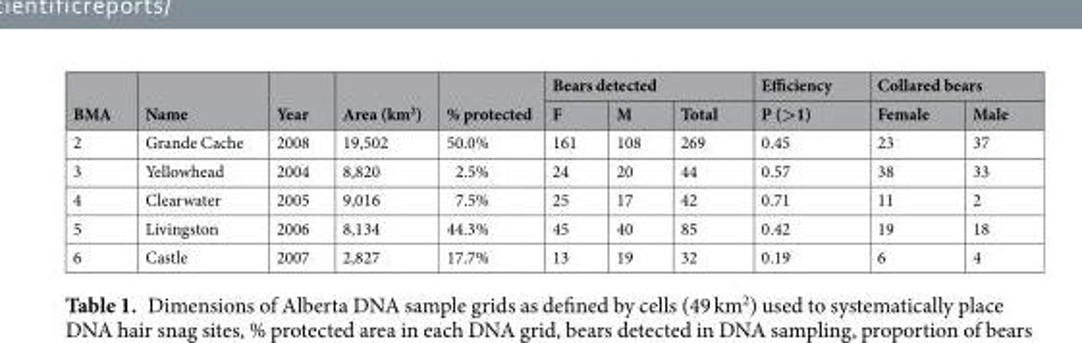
<table><thead><tr><td rowspan="2">BMA</td><td rowspan="2">Name</td><td rowspan="2">Year</td><td rowspan="2">Area (km<sup>2</sup>)</td><td rowspan="2">% protected</td><td colspan="3">Bears detected</td><td rowspan="2">Efficiency P (&gt;1)</td><td colspan="2">Collared bears</td></tr><tr><td>F</td><td>M</td><td>Total</td><td>Female</td><td>Male</td></tr></thead><tbody><tr><td>2</td><td>Grande Cache</td><td>2008</td><td>19,502</td><td>50.0%</td><td>161</td><td>108</td><td>269</td><td>0.45</td><td>23</td><td>37</td></tr><tr><td>3</td><td>Yellowhead</td><td>2004</td><td>8,820</td><td>2.5%</td><td>24</td><td>20</td><td>44</td><td>0.57</td><td>38</td><td>33</td></tr><tr><td>4</td><td>Clearwater</td><td>2005</td><td>9,016</td><td>7.5%</td><td>25</td><td>17</td><td>42</td><td>0.71</td><td>11</td><td>2</td></tr><tr><td>5</td><td>Livingston</td><td>2006</td><td>8,134</td><td>44.3%</td><td>45</td><td>40</td><td>85</td><td>0.42</td><td>19</td><td>18</td></tr><tr><td>6</td><td>Castle</td><td>2007</td><td>2,827</td><td>17.7%</td><td>13</td><td>19</td><td>32</td><td>0.19</td><td>6</td><td>4</td></tr></tbody></table>